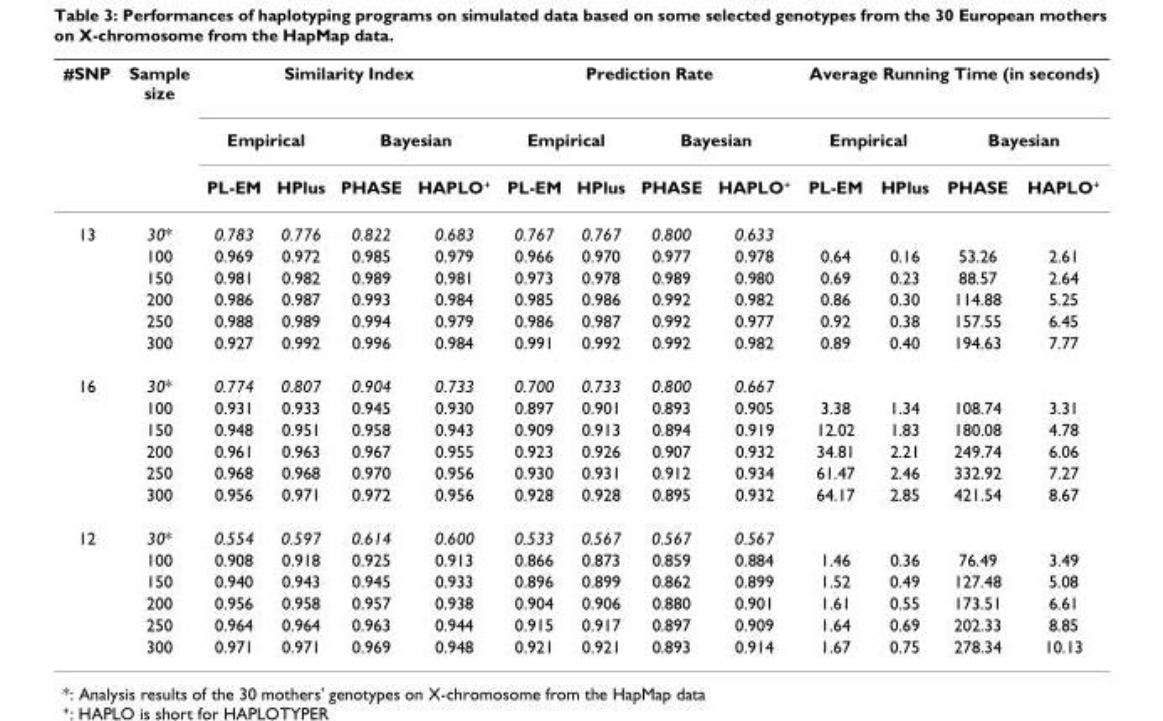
<table><thead><tr><td rowspan="3">#SNP</td><td rowspan="3">Sample size</td><td colspan="4">Similarity Index</td><td colspan="4">Prediction Rate</td><td colspan="4">Average Running Time (in seconds)</td></tr><tr><td colspan="2">Empirical</td><td colspan="2">Bayesian</td><td colspan="2">Empirical</td><td colspan="2">Bayesian</td><td colspan="2">Empirical</td><td colspan="2">Bayesian</td></tr><tr><td>PL-EM</td><td>HPlus</td><td>PHASE</td><td>HAPLO<sup>+</sup></td><td>PL-EM</td><td>HPlus</td><td>PHASE</td><td>HAPLO<sup>+</sup></td><td>PL-EM</td><td>HPlus</td><td>PHASE</td><td>HAPLO<sup>+</sup></td></tr></thead><tbody><tr><td rowspan="6">13</td><td>30*</td><td>0.783</td><td>0.776</td><td>0.822</td><td>0.683</td><td>0.767</td><td>0.767</td><td>0.800</td><td>0.633</td><td></td><td></td><td></td><td></td></tr><tr><td>100</td><td>0.969</td><td>0.972</td><td>0.985</td><td>0.979</td><td>0.966</td><td>0.970</td><td>0.977</td><td>0.978</td><td>0.64</td><td>0.16</td><td>53.26</td><td>2.61</td></tr><tr><td>150</td><td>0.981</td><td>0.982</td><td>0.989</td><td>0.981</td><td>0.973</td><td>0.978</td><td>0.989</td><td>0.980</td><td>0.69</td><td>0.23</td><td>88.57</td><td>2.64</td></tr><tr><td>200</td><td>0.986</td><td>0.987</td><td>0.993</td><td>0.984</td><td>0.985</td><td>0.986</td><td>0.992</td><td>0.982</td><td>0.86</td><td>0.30</td><td>114.88</td><td>5.25</td></tr><tr><td>250</td><td>0.988</td><td>0.989</td><td>0.994</td><td>0.979</td><td>0.986</td><td>0.987</td><td>0.992</td><td>0.977</td><td>0.92</td><td>0.38</td><td>157.55</td><td>6.45</td></tr><tr><td>300</td><td>0.927</td><td>0.992</td><td>0.996</td><td>0.984</td><td>0.991</td><td>0.992</td><td>0.992</td><td>0.982</td><td>0.89</td><td>0.40</td><td>194.63</td><td>7.77</td></tr><tr><td rowspan="6">16</td><td>30*</td><td>0.774</td><td>0.807</td><td>0.904</td><td>0.733</td><td>0.700</td><td>0.733</td><td>0.800</td><td>0.667</td><td></td><td></td><td></td><td></td></tr><tr><td>100</td><td>0.931</td><td>0.933</td><td>0.945</td><td>0.930</td><td>0.897</td><td>0.901</td><td>0.893</td><td>0.905</td><td>3.38</td><td>1.34</td><td>108.74</td><td>3.31</td></tr><tr><td>150</td><td>0.948</td><td>0.951</td><td>0.958</td><td>0.943</td><td>0.909</td><td>0.913</td><td>0.894</td><td>0.919</td><td>12.02</td><td>1.83</td><td>180.08</td><td>4.78</td></tr><tr><td>200</td><td>0.961</td><td>0.963</td><td>0.967</td><td>0.955</td><td>0.923</td><td>0.926</td><td>0.907</td><td>0.932</td><td>34.81</td><td>2.21</td><td>249.74</td><td>6.06</td></tr><tr><td>250</td><td>0.968</td><td>0.968</td><td>0.970</td><td>0.956</td><td>0.930</td><td>0.931</td><td>0.912</td><td>0.934</td><td>61.47</td><td>2.46</td><td>332.92</td><td>7.27</td></tr><tr><td>300</td><td>0.956</td><td>0.971</td><td>0.972</td><td>0.956</td><td>0.928</td><td>0.928</td><td>0.895</td><td>0.932</td><td>64.17</td><td>2.85</td><td>421.54</td><td>8.67</td></tr><tr><td rowspan="6">12</td><td>30*</td><td>0.554</td><td>0.597</td><td>0.614</td><td>0.600</td><td>0.533</td><td>0.567</td><td>0.567</td><td>0.567</td><td></td><td></td><td></td><td></td></tr><tr><td>100</td><td>0.908</td><td>0.918</td><td>0.925</td><td>0.913</td><td>0.866</td><td>0.873</td><td>0.859</td><td>0.884</td><td>1.46</td><td>0.36</td><td>76.49</td><td>3.49</td></tr><tr><td>150</td><td>0.940</td><td>0.943</td><td>0.945</td><td>0.933</td><td>0.896</td><td>0.899</td><td>0.862</td><td>0.899</td><td>1.52</td><td>0.49</td><td>127.48</td><td>5.08</td></tr><tr><td>200</td><td>0.956</td><td>0.958</td><td>0.957</td><td>0.938</td><td>0.904</td><td>0.906</td><td>0.880</td><td>0.901</td><td>1.61</td><td>0.55</td><td>173.51</td><td>6.61</td></tr><tr><td>250</td><td>0.964</td><td>0.964</td><td>0.963</td><td>0.944</td><td>0.915</td><td>0.917</td><td>0.897</td><td>0.909</td><td>1.64</td><td>0.69</td><td>202.33</td><td>8.85</td></tr><tr><td>300</td><td>0.971</td><td>0.971</td><td>0.969</td><td>0.948</td><td>0.921</td><td>0.921</td><td>0.893</td><td>0.914</td><td>1.67</td><td>0.75</td><td>278.34</td><td>10.13</td></tr></tbody></table>